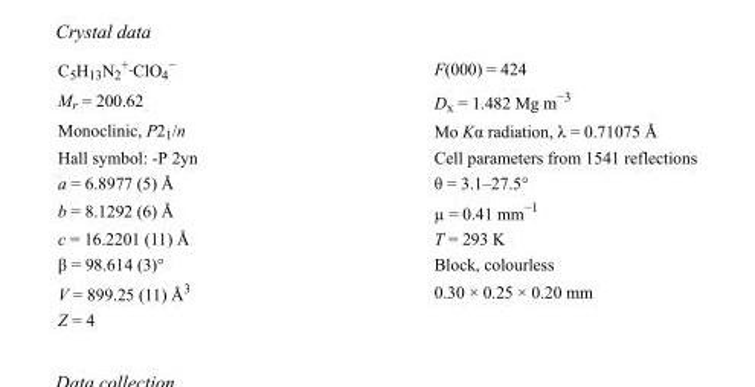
<table><tbody><tr><td>C<sub>5</sub>H<sub>13</sub>N<sub>2</sub> <sup>+</sup>·ClO<sub>4</sub> <sup>−</sup></td><td>F(000) = 424</td></tr><tr><td>M<sub>r</sub> = 200.62</td><td>D<sub>x</sub> = 1.482 Mg m<sup>−3</sup></td></tr><tr><td>Monoclinic, P2<sub>1</sub>/n</td><td>Mo Kα radiation, λ = 0.71075 Å</td></tr><tr><td>Hall symbol: -P 2yn</td><td>Cell parameters from 1541 reflections</td></tr><tr><td>a = 6.8977 (5) Å</td><td>θ = 3.1–27.5°</td></tr><tr><td>b = 8.1292 (6) Å</td><td>µ = 0.41 mm<sup>−1</sup></td></tr><tr><td>c = 16.2201 (11) Å</td><td>T = 293 K</td></tr><tr><td>β = 98.614 (3)°</td><td>Block, colourless</td></tr><tr><td>V = 899.25 (11) Å<sup>3</sup></td><td>0.30 × 0.25 × 0.20 mm</td></tr><tr><td>Z = 4</td><td></td></tr></tbody></table>